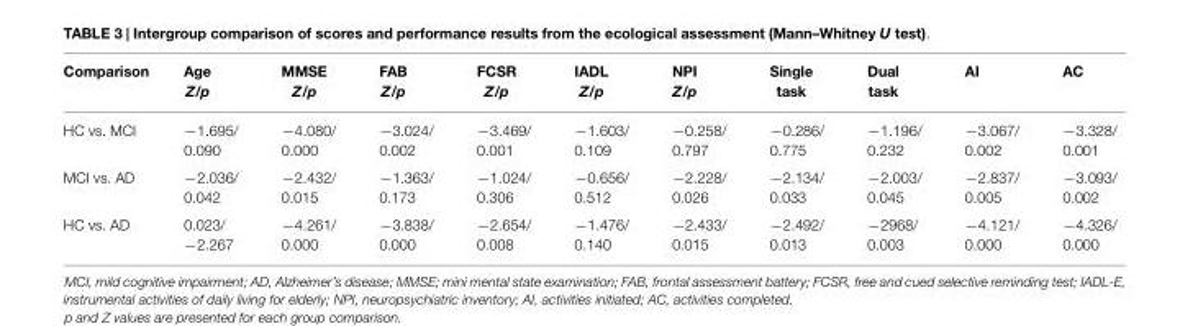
<table><thead><tr><td>Comparison</td><td>Age Z/p</td><td>MMSE Z/p</td><td>FAB Z/p</td><td>FCSR Z/p</td><td>IADL Z/p</td><td>NPI Z/p</td><td>Single task</td><td>Dual task</td><td>AI</td><td>AC</td></tr></thead><tbody><tr><td>HC vs. MCI</td><td>−1.695/ 0.090</td><td>−4.080/ 0.000</td><td>−3.024/ 0.002</td><td>−3.469/ 0.001</td><td>−1.603/ 0.109</td><td>−0.258/ 0.797</td><td>−0.286/ 0.775</td><td>−1.196/ 0.232</td><td>−3.067/ 0.002</td><td>−3.328/ 0.001</td></tr><tr><td>MCI vs. AD</td><td>−2.036/ 0.042</td><td>−2.432/ 0.015</td><td>−1.363/ 0.173</td><td>−1.024/ 0.306</td><td>−0.656/ 0.512</td><td>−2.228/ 0.026</td><td>−2.134/ 0.033</td><td>−2.003/ 0.045</td><td>−2.837/ 0.005</td><td>−3.093/ 0.002</td></tr><tr><td>HC vs. AD</td><td>0.023/ −2.267</td><td>−4.261/ 0.000</td><td>−3.838/ 0.000</td><td>−2.654/ 0.008</td><td>−1.476/ 0.140</td><td>−2.433/ 0.015</td><td>−2.492/ 0.013</td><td>−2968/ 0.003</td><td>−4.121/ 0.000</td><td>−4.326/ 0.000</td></tr></tbody></table>